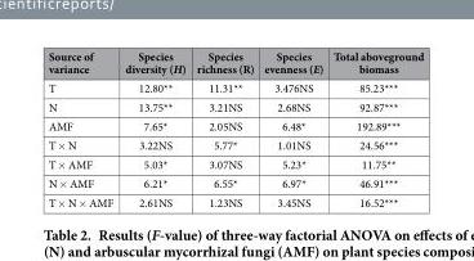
<table><thead><tr><td>Source of variance</td><td>Species diversity (H)</td><td>Species richness (R)</td><td>Species evenness (E)</td><td>Total aboveground biomass</td></tr></thead><tbody><tr><td>T</td><td>12.80**</td><td>11.31**</td><td>3.476NS</td><td>85.23***</td></tr><tr><td>N</td><td>13.75**</td><td>3.21NS</td><td>2.68NS</td><td>92.87***</td></tr><tr><td>AMF</td><td>7.65*</td><td>2.05NS</td><td>6.48*</td><td>192.89***</td></tr><tr><td>T × N</td><td>3.22NS</td><td>5.77*</td><td>1.01NS</td><td>24.56***</td></tr><tr><td>T × AMF</td><td>5.03*</td><td>3.07NS</td><td>5.23*</td><td>11.75**</td></tr><tr><td>N × AMF</td><td>6.21*</td><td>6.55*</td><td>6.97*</td><td>46.91***</td></tr><tr><td>T × N × AMF</td><td>2.61NS</td><td>1.23NS</td><td>3.45NS</td><td>16.52***</td></tr></tbody></table>